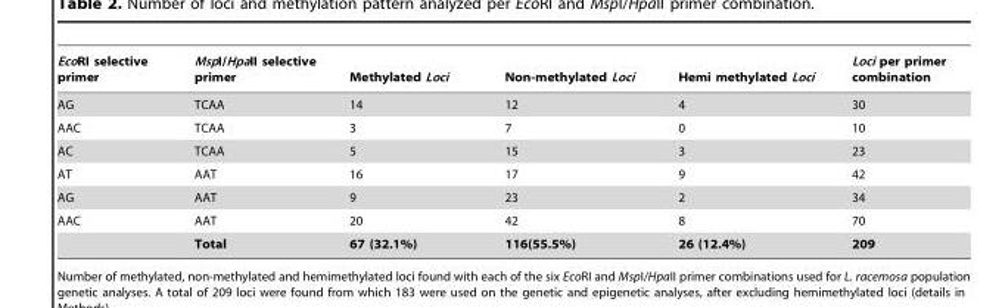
<table><thead><tr><td>EcoRI selective primer</td><td>MspI/HpaII selective primer</td><td>Methylated Loci</td><td>Non-methylated Loci</td><td>Hemi methylated Loci</td><td>Loci per primer combination</td></tr></thead><tbody><tr><td>AG</td><td>TCAA</td><td>14</td><td>12</td><td>4</td><td>30</td></tr><tr><td>AAC</td><td>TCAA</td><td>3</td><td>7</td><td>0</td><td>10</td></tr><tr><td>AC</td><td>TCAA</td><td>5</td><td>15</td><td>3</td><td>23</td></tr><tr><td>AT</td><td>AAT</td><td>16</td><td>17</td><td>9</td><td>42</td></tr><tr><td>AG</td><td>AAT</td><td>9</td><td>23</td><td>2</td><td>34</td></tr><tr><td rowspan="2">AAC</td><td>AAT</td><td>20</td><td>42</td><td>8</td><td>70</td></tr><tr><td>Total</td><td>67 (32.1%)</td><td>116(55.5%)</td><td>26 (12.4%)</td><td>209</td></tr></tbody></table>